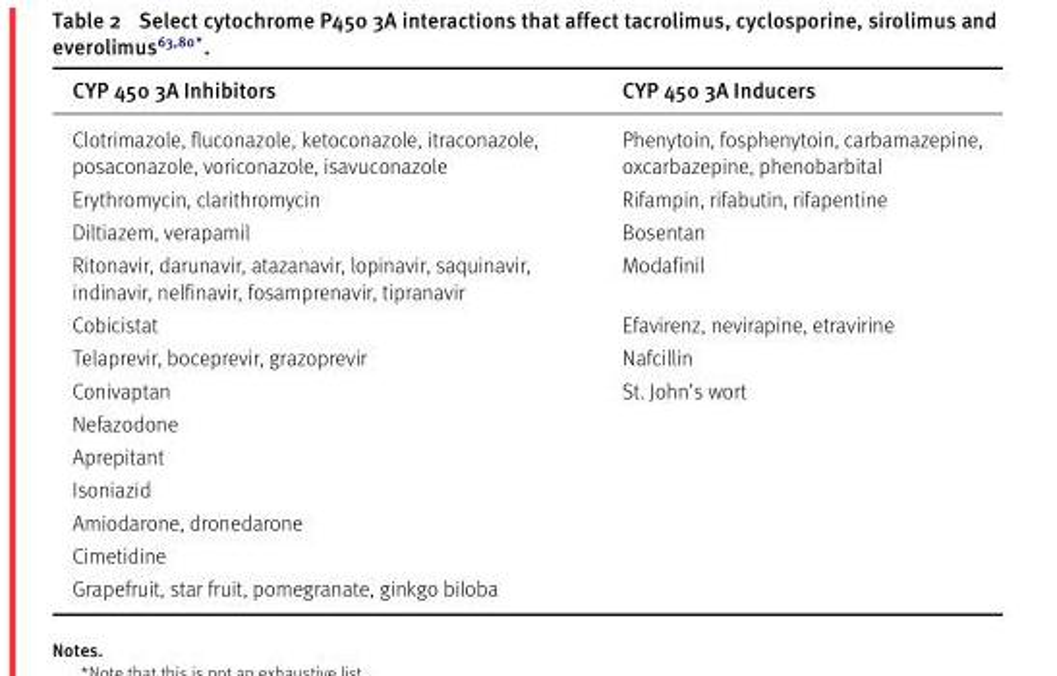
<table><thead><tr><td>CYP 450 3A Inhibitors</td><td>CYP 450 3A Inducers</td></tr></thead><tbody><tr><td>Clotrimazole, fluconazole, ketoconazole, itraconazole, posaconazole, voriconazole, isavuconazole</td><td>Phenytoin, fosphenytoin, carbamazepine, oxcarbazepine, phenobarbital</td></tr><tr><td>Erythromycin, clarithromycin</td><td>Rifampin, rifabutin, rifapentine</td></tr><tr><td>Diltiazem, verapamil</td><td>Bosentan</td></tr><tr><td>Ritonavir, darunavir, atazanavir, lopinavir, saquinavir, indinavir, nelfinavir, fosamprenavir, tipranavir</td><td>Modafinil</td></tr><tr><td>Cobicistat</td><td>Efavirenz, nevirapine, etravirine</td></tr><tr><td>Telaprevir, boceprevir, grazoprevir</td><td>Nafcillin</td></tr><tr><td>Conivaptan</td><td>St. John’s wort</td></tr><tr><td colspan="2">Nefazodone</td></tr><tr><td colspan="2">Aprepitant</td></tr><tr><td colspan="2">Isoniazid</td></tr><tr><td colspan="2">Amiodarone, dronedarone</td></tr><tr><td colspan="2">Cimetidine</td></tr><tr><td>Grapefruit, star fruit, pomegranate, ginkgo biloba</td><td></td></tr></tbody></table>